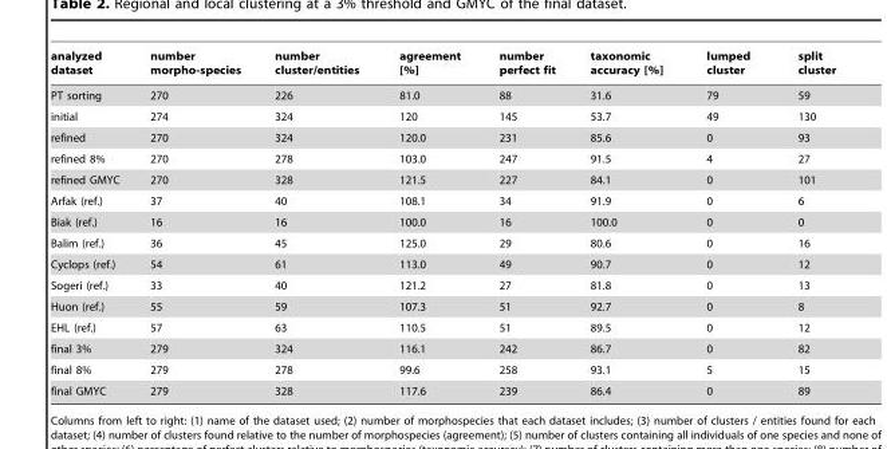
<table><thead><tr><td>analyzed dataset</td><td>number morpho-species</td><td>number cluster/entities</td><td>agreement [%]</td><td>number perfect fit</td><td>taxonomic accuracy [%]</td><td>lumped cluster</td><td>split cluster</td></tr></thead><tbody><tr><td>PT sorting</td><td>270</td><td>226</td><td>81.0</td><td>88</td><td>31.6</td><td>79</td><td>59</td></tr><tr><td>initial</td><td>274</td><td>324</td><td>120</td><td>145</td><td>53.7</td><td>49</td><td>130</td></tr><tr><td>refined</td><td>270</td><td>324</td><td>120.0</td><td>231</td><td>85.6</td><td>0</td><td>93</td></tr><tr><td>refined 8%</td><td>270</td><td>278</td><td>103.0</td><td>247</td><td>91.5</td><td>4</td><td>27</td></tr><tr><td>refined GMYC</td><td>270</td><td>328</td><td>121.5</td><td>227</td><td>84.1</td><td>0</td><td>101</td></tr><tr><td>Arfak (ref.)</td><td>37</td><td>40</td><td>108.1</td><td>34</td><td>91.9</td><td>0</td><td>6</td></tr><tr><td>Biak (ref.)</td><td>16</td><td>16</td><td>100.0</td><td>16</td><td>100.0</td><td>0</td><td>0</td></tr><tr><td>Balim (ref.)</td><td>36</td><td>45</td><td>125.0</td><td>29</td><td>80.6</td><td>0</td><td>16</td></tr><tr><td>Cyclops (ref.)</td><td>54</td><td>61</td><td>113.0</td><td>49</td><td>90.7</td><td>0</td><td>12</td></tr><tr><td>Sogeri (ref.)</td><td>33</td><td>40</td><td>121.2</td><td>27</td><td>81.8</td><td>0</td><td>13</td></tr><tr><td>Huon (ref.)</td><td>55</td><td>59</td><td>107.3</td><td>51</td><td>92.7</td><td>0</td><td>8</td></tr><tr><td>EHL (ref.)</td><td>57</td><td>63</td><td>110.5</td><td>51</td><td>89.5</td><td>0</td><td>12</td></tr><tr><td>final 3%</td><td>279</td><td>324</td><td>116.1</td><td>242</td><td>86.7</td><td>0</td><td>82</td></tr><tr><td>final 8%</td><td>279</td><td>278</td><td>99.6</td><td>258</td><td>93.1</td><td>5</td><td>15</td></tr><tr><td>final GMYC</td><td>279</td><td>328</td><td>117.6</td><td>239</td><td>86.4</td><td>0</td><td>89</td></tr></tbody></table>